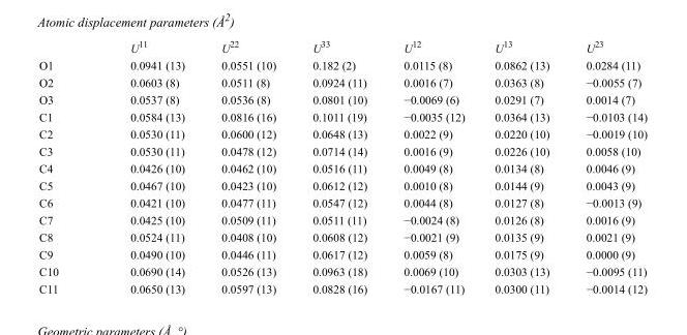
<table><thead><tr><td></td><td>U<sup>11</sup></td><td>U<sup>22</sup></td><td>U<sup>33</sup></td><td>U<sup>12</sup></td><td>U<sup>13</sup></td><td>U<sup>23</sup></td></tr></thead><tbody><tr><td>O1</td><td>0.0941 (13)</td><td>0.0551 (10)</td><td>0.182 (2)</td><td>0.0115 (8)</td><td>0.0862 (13)</td><td>0.0284 (11)</td></tr><tr><td>O2</td><td>0.0603 (8)</td><td>0.0511 (8)</td><td>0.0924 (11)</td><td>0.0016 (7)</td><td>0.0363 (8)</td><td>−0.0055 (7)</td></tr><tr><td>O3</td><td>0.0537 (8)</td><td>0.0536 (8)</td><td>0.0801 (10)</td><td>−0.0069 (6)</td><td>0.0291 (7)</td><td>0.0014 (7)</td></tr><tr><td>C1</td><td>0.0584 (13)</td><td>0.0816 (16)</td><td>0.1011 (19)</td><td>−0.0035 (12)</td><td>0.0364 (13)</td><td>−0.0103 (14)</td></tr><tr><td>C2</td><td>0.0530 (11)</td><td>0.0600 (12)</td><td>0.0648 (13)</td><td>0.0022 (9)</td><td>0.0220 (10)</td><td>−0.0019 (10)</td></tr><tr><td>C3</td><td>0.0530 (11)</td><td>0.0478 (12)</td><td>0.0714 (14)</td><td>0.0016 (9)</td><td>0.0226 (10)</td><td>0.0058 (10)</td></tr><tr><td>C4</td><td>0.0426 (10)</td><td>0.0462 (10)</td><td>0.0516 (11)</td><td>0.0049 (8)</td><td>0.0134 (8)</td><td>0.0046 (9)</td></tr><tr><td>C5</td><td>0.0467 (10)</td><td>0.0423 (10)</td><td>0.0612 (12)</td><td>0.0010 (8)</td><td>0.0144 (9)</td><td>0.0043 (9)</td></tr><tr><td>C6</td><td>0.0421 (10)</td><td>0.0477 (11)</td><td>0.0547 (12)</td><td>0.0044 (8)</td><td>0.0127 (8)</td><td>−0.0013 (9)</td></tr><tr><td>C7</td><td>0.0425 (10)</td><td>0.0509 (11)</td><td>0.0511 (11)</td><td>−0.0024 (8)</td><td>0.0126 (8)</td><td>0.0016 (9)</td></tr><tr><td>C8</td><td>0.0524 (11)</td><td>0.0408 (10)</td><td>0.0608 (12)</td><td>−0.0021 (9)</td><td>0.0135 (9)</td><td>0.0021 (9)</td></tr><tr><td>C9</td><td>0.0490 (10)</td><td>0.0446 (11)</td><td>0.0617 (12)</td><td>0.0059 (8)</td><td>0.0175 (9)</td><td>0.0000 (9)</td></tr><tr><td>C10</td><td>0.0690 (14)</td><td>0.0526 (13)</td><td>0.0963 (18)</td><td>0.0069 (10)</td><td>0.0303 (13)</td><td>−0.0095 (11)</td></tr><tr><td>C11</td><td>0.0650 (13)</td><td>0.0597 (13)</td><td>0.0828 (16)</td><td>−0.0167 (11)</td><td>0.0300 (11)</td><td>−0.0014 (12)</td></tr></tbody></table>